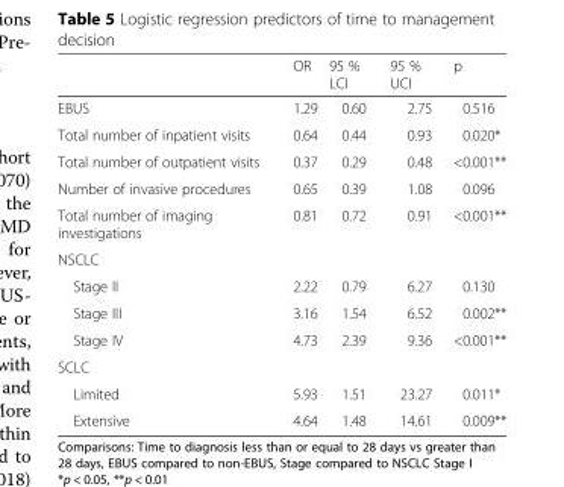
<table><thead><tr><td></td><td>OR</td><td>95 % LCI</td><td>95 % UCI</td><td>p</td></tr></thead><tbody><tr><td>EBUS</td><td>1.29</td><td>0.60</td><td>2.75</td><td>0.516</td></tr><tr><td>Total number of inpatient visits</td><td>0.64</td><td>0.44</td><td>0.93</td><td>0.020*</td></tr><tr><td>Total number of outpatient visits</td><td>0.37</td><td>0.29</td><td>0.48</td><td>&lt;0.001**</td></tr><tr><td>Number of invasive procedures</td><td>0.65</td><td>0.39</td><td>1.08</td><td>0.096</td></tr><tr><td>Total number of imaging investigations</td><td>0.81</td><td>0.72</td><td>0.91</td><td>&lt;0.001**</td></tr><tr><td colspan="5">NSCLC</td></tr><tr><td>Stage II</td><td>2.22</td><td>0.79</td><td>6.27</td><td>0.130</td></tr><tr><td>Stage III</td><td>3.16</td><td>1.54</td><td>6.52</td><td>0.002**</td></tr><tr><td>Stage IV</td><td>4.73</td><td>2.39</td><td>9.36</td><td>&lt;0.001**</td></tr><tr><td colspan="5">SCLC</td></tr><tr><td>Limited</td><td>5.93</td><td>1.51</td><td>23.27</td><td>0.011*</td></tr><tr><td>Extensive</td><td>4.64</td><td>1.48</td><td>14.61</td><td>0.009**</td></tr></tbody></table>